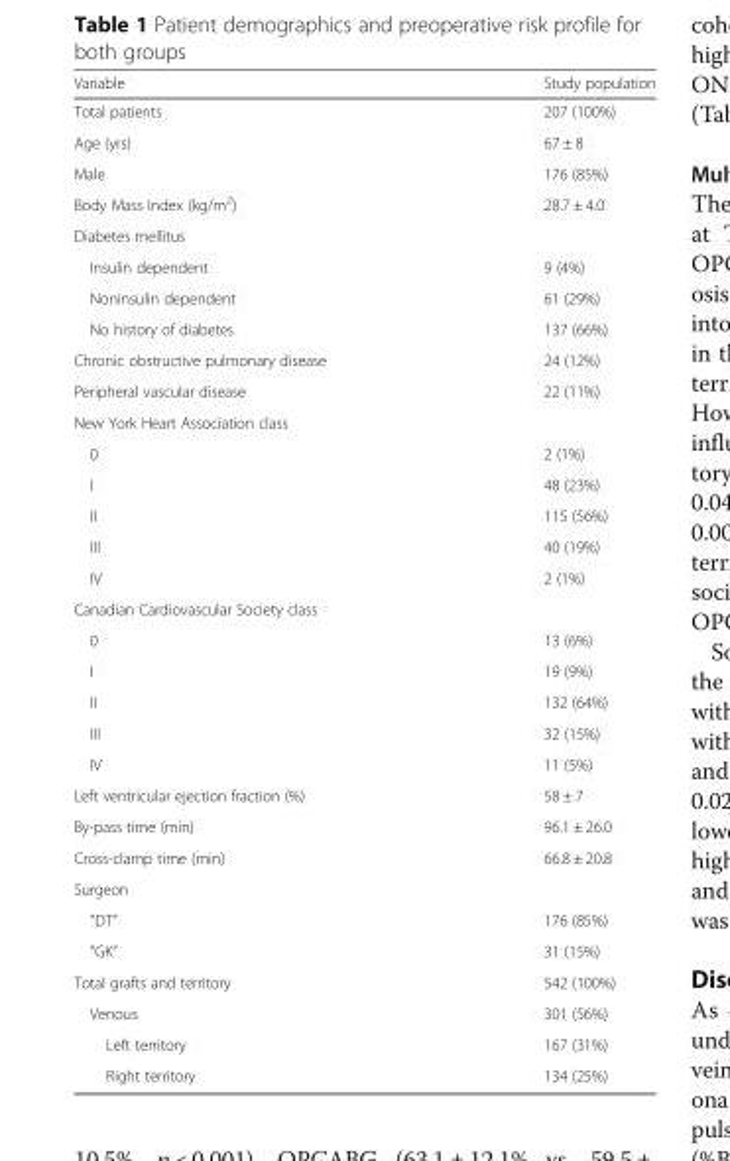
<table><thead><tr><td>Variable</td><td>Study population</td></tr></thead><tbody><tr><td>Total patients</td><td>207 (100%)</td></tr><tr><td>Age (yrs)</td><td>67 ± 8</td></tr><tr><td>Male</td><td>176 (85%)</td></tr><tr><td>Body Mass Index (kg/m<sup>2</sup>)</td><td>28.7 ± 4.0</td></tr><tr><td colspan="2">Diabetes mellitus</td></tr><tr><td>Insulin dependent</td><td>9 (4%)</td></tr><tr><td>Noninsulin dependent</td><td>61 (29%)</td></tr><tr><td>No history of diabetes</td><td>137 (66%)</td></tr><tr><td>Chronic obstructive pulmonary disease</td><td>24 (12%)</td></tr><tr><td>Peripheral vascular disease</td><td>22 (11%)</td></tr><tr><td colspan="2">New York Heart Association class</td></tr><tr><td>0</td><td>2 (1%)</td></tr><tr><td>I</td><td>48 (23%)</td></tr><tr><td>II</td><td>115 (56%)</td></tr><tr><td>III</td><td>40 (19%)</td></tr><tr><td>IV</td><td>2 (1%)</td></tr><tr><td colspan="2">Canadian Cardiovascular Society class</td></tr><tr><td>0</td><td>13 (6%)</td></tr><tr><td>I</td><td>19 (9%)</td></tr><tr><td>II</td><td>132 (64%)</td></tr><tr><td>III</td><td>32 (15%)</td></tr><tr><td>IV</td><td>11 (5%)</td></tr><tr><td>Left ventricular ejection fraction (%)</td><td>58 ± 7</td></tr><tr><td>By-pass time (min)</td><td>96.1 ± 26.0</td></tr><tr><td>Cross-clamp time (min)</td><td>66.8 ± 20.8</td></tr><tr><td colspan="2">Surgeon</td></tr><tr><td>”DT”</td><td>176 (85%)</td></tr><tr><td>&quot;GK”</td><td>31 (15%)</td></tr><tr><td>Total grafts and territory</td><td>542 (100%)</td></tr><tr><td>Venous</td><td>301 (56%)</td></tr><tr><td>Left territory</td><td>167 (31%)</td></tr><tr><td>Right territory</td><td>134 (25%)</td></tr></tbody></table>